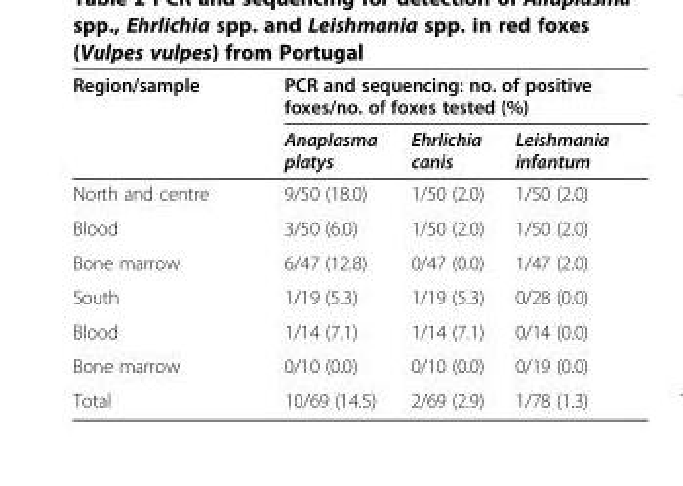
<table><thead><tr><td rowspan="2">Region/sample</td><td colspan="3">PCR and sequencing: no. of positive foxes/no. of foxes tested (%)</td></tr><tr><td>Anaplasma platys</td><td>Ehrlichia canis</td><td>Leishmania infantum</td></tr></thead><tbody><tr><td>North and centre</td><td>9/50 (18.0)</td><td>1/50 (2.0)</td><td>1/50 (2.0)</td></tr><tr><td>Blood</td><td>3/50 (6.0)</td><td>1/50 (2.0)</td><td>1/50 (2.0)</td></tr><tr><td>Bone marrow</td><td>6/47 (12.8)</td><td>0/47 (0.0)</td><td>1/47 (2.0)</td></tr><tr><td>South</td><td>1/19 (5.3)</td><td>1/19 (5.3)</td><td>0/28 (0.0)</td></tr><tr><td>Blood</td><td>1/14 (7.1)</td><td>1/14 (7.1)</td><td>0/14 (0.0)</td></tr><tr><td>Bone marrow</td><td>0/10 (0.0)</td><td>0/10 (0.0)</td><td>0/19 (0.0)</td></tr><tr><td>Total</td><td>10/69 (14.5)</td><td>2/69 (2.9)</td><td>1/78 (1.3)</td></tr></tbody></table>